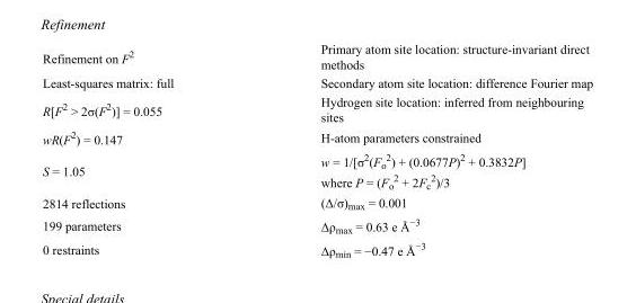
<table><tbody><tr><td>Refinement on F<sup>2</sup></td><td>Primary atom site location: structure-invariant direct methods</td></tr><tr><td>Least-squares matrix: full</td><td>Secondary atom site location: difference Fourier map</td></tr><tr><td>R[F<sup>2</sup> &gt; 2σ(F<sup>2</sup>)] = 0.055</td><td>Hydrogen site location: inferred from neighbouring sites</td></tr><tr><td>wR(F<sup>2</sup>) = 0.147</td><td>H-atom parameters constrained</td></tr><tr><td>S = 1.05</td><td>w = 1/[σ<sup>2</sup>(F<sub>o</sub> <sup>2</sup>) + (0.0677P)<sup>2</sup> + 0.3832P] where P = (F<sub>o</sub> <sup>2</sup> + 2F<sub>c</sub> <sup>2</sup>)/3</td></tr><tr><td>2814 reflections</td><td>(Δ/σ)<sub>max</sub> = 0.001</td></tr><tr><td>199 parameters</td><td>Δρ<sub>max</sub> = 0.63 e Å<sup>−3</sup></td></tr><tr><td>0 restraints</td><td>Δρ<sub>min</sub> = −0.47 e Å<sup>−3</sup></td></tr></tbody></table>